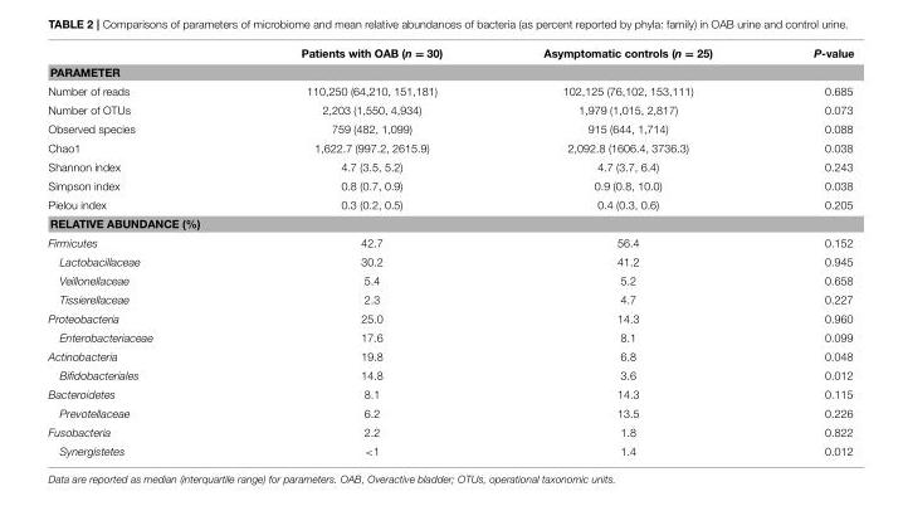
<table><thead><tr><td></td><td>Patients with OAB (n = 30)</td><td>Asymptomatic controls (n = 25)</td><td>P-value</td></tr></thead><tbody><tr><td colspan="4">PARAMETER</td></tr><tr><td>Number of reads</td><td>110,250 (64,210, 151,181)</td><td>102,125 (76,102, 153,111)</td><td>0.685</td></tr><tr><td>Number of OTUs</td><td>2,203 (1,550, 4,934)</td><td>1,979 (1,015, 2,817)</td><td>0.073</td></tr><tr><td>Observed species</td><td>759 (482, 1,099)</td><td>915 (644, 1,714)</td><td>0.088</td></tr><tr><td>Chao1</td><td>1,622.7 (997.2, 2615.9)</td><td>2,092.8 (1606.4, 3736.3)</td><td>0.038</td></tr><tr><td>Shannon index</td><td>4.7 (3.5, 5.2)</td><td>4.7 (3.7, 6.4)</td><td>0.243</td></tr><tr><td>Simpson index</td><td>0.8 (0.7, 0.9)</td><td>0.9 (0.8, 10.0)</td><td>0.038</td></tr><tr><td>Pielou index</td><td>0.3 (0.2, 0.5)</td><td>0.4 (0.3, 0.6)</td><td>0.205</td></tr><tr><td colspan="4">RELATIVE ABUNDANCE (%)</td></tr><tr><td>Firmicutes</td><td>42.7</td><td>56.4</td><td>0.152</td></tr><tr><td>Lactobacillaceae</td><td>30.2</td><td>41.2</td><td>0.945</td></tr><tr><td>Veillonellaceae</td><td>5.4</td><td>5.2</td><td>0.658</td></tr><tr><td>Tissierellaceae</td><td>2.3</td><td>4.7</td><td>0.227</td></tr><tr><td>Proteobacteria</td><td>25.0</td><td>14.3</td><td>0.960</td></tr><tr><td>Enterobacteriaceae</td><td>17.6</td><td>8.1</td><td>0.099</td></tr><tr><td>Actinobacteria</td><td>19.8</td><td>6.8</td><td>0.048</td></tr><tr><td>Bifidobacteriales</td><td>14.8</td><td>3.6</td><td>0.012</td></tr><tr><td>Bacteroidetes</td><td>8.1</td><td>14.3</td><td>0.115</td></tr><tr><td>Prevotellaceae</td><td>6.2</td><td>13.5</td><td>0.226</td></tr><tr><td>Fusobacteria</td><td>2.2</td><td>1.8</td><td>0.822</td></tr><tr><td>Synergistetes</td><td>&lt;1</td><td>1.4</td><td>0.012</td></tr></tbody></table>